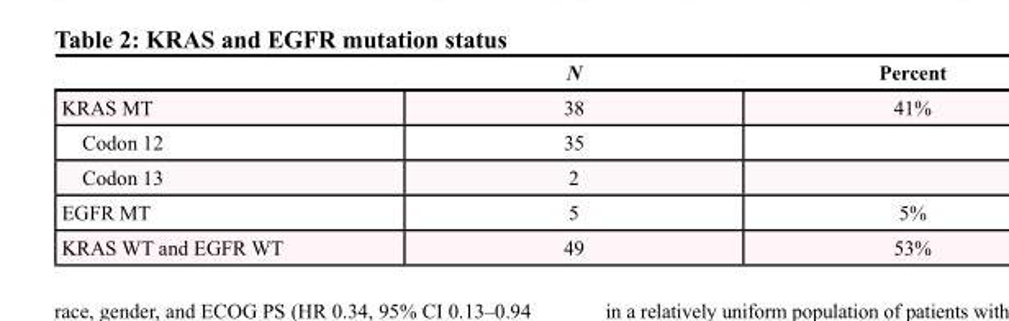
<table><thead><tr><td></td><td>N</td><td>Percent</td></tr></thead><tbody><tr><td>KRAS MT</td><td>38</td><td>41%</td></tr><tr><td>Codon 12</td><td>35</td><td></td></tr><tr><td>Codon 13</td><td>2</td><td></td></tr><tr><td>EGFR MT</td><td>5</td><td>5%</td></tr><tr><td>KRAS WT and EGFR WT</td><td>49</td><td>53%</td></tr></tbody></table>